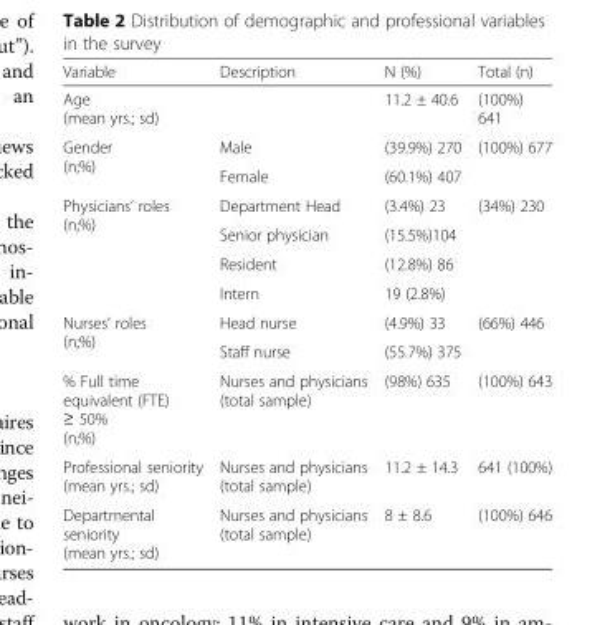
<table><thead><tr><td>Variable</td><td>Description</td><td>N (%)</td><td>Total (n)</td></tr></thead><tbody><tr><td>Age (mean yrs.; sd)</td><td></td><td>11.2 ± 40.6</td><td>(100%) 641</td></tr><tr><td rowspan="2">Gender (n;%)</td><td>Male</td><td>(39.9%) 270</td><td>(100%) 677</td></tr><tr><td>Female</td><td>(60.1%) 407</td><td></td></tr><tr><td rowspan="4">Physicians’ roles (n;%)</td><td>Department Head</td><td>(3.4%) 23</td><td rowspan="4">(34%) 230</td></tr><tr><td>Senior physician</td><td>(15.5%)104</td></tr><tr><td>Resident</td><td>(12.8%) 86</td></tr><tr><td>Intern</td><td>19 (2.8%)</td></tr><tr><td rowspan="2">Nurses’ roles (n;%)</td><td>Head nurse</td><td>(4.9%) 33</td><td rowspan="2">(66%) 446</td></tr><tr><td>Staff nurse</td><td>(55.7%) 375</td></tr><tr><td>% Full time equivalent (FTE) ≥ 50% (n;%)</td><td>Nurses and physicians (total sample)</td><td>(98%) 635</td><td>(100%) 643</td></tr><tr><td>Professional seniority (mean yrs.; sd)</td><td>Nurses and physicians (total sample)</td><td>11.2 ± 14.3</td><td>641 (100%)</td></tr><tr><td>Departmental seniority (mean yrs.; sd)</td><td>Nurses and physicians (total sample)</td><td>8 ± 8.6</td><td>(100%) 646</td></tr></tbody></table>